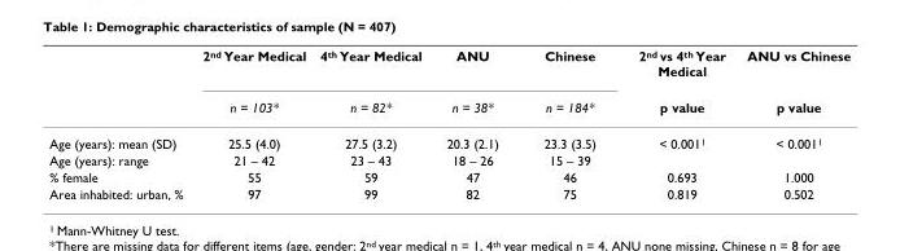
<table><thead><tr><td rowspan="2"></td><td rowspan="2">2<sup>nd</sup> Year Medical n = 103*</td><td rowspan="2">4<sup>th</sup> Year Medical n = 82*</td><td rowspan="2">ANU n = 38*</td><td rowspan="2">Chinese n = 184*</td><td rowspan="2">2<sup>nd</sup> vs 4<sup>th</sup> Year Medical p value</td><td rowspan="2">ANU vs Chinese p value</td></tr><tr></tr></thead><tbody><tr><td>Age (years): mean (SD)</td><td>25.5 (4.0)</td><td>27.5 (3.2)</td><td>20.3 (2.1)</td><td>23.3 (3.5)</td><td>&lt; 0.001<sup>1</sup></td><td>&lt; 0.001<sup>1</sup></td></tr><tr><td>Age (years): range</td><td>21 – 42</td><td>23 – 43</td><td>18 – 26</td><td>15 – 39</td><td></td><td></td></tr><tr><td>% female</td><td>55</td><td>59</td><td>47</td><td>46</td><td>0.693</td><td>1.000</td></tr><tr><td>Area inhabited: urban, %</td><td>97</td><td>99</td><td>82</td><td>75</td><td>0.819</td><td>0.502</td></tr></tbody></table>